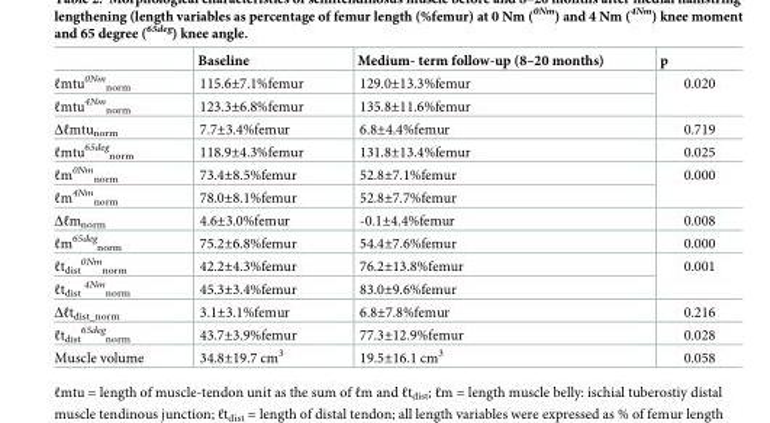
<table><thead><tr><td></td><td>Baseline</td><td>Medium- term follow-up (8–20 months)</td><td>p</td></tr></thead><tbody><tr><td>ℓmtu<sup>0Nm</sup> <sub>norm</sub></td><td>115.6±7.1%femur</td><td>129.0±13.3%femur</td><td rowspan="2">0.020</td></tr><tr><td>ℓmtu<sup>4Nm</sup> <sub>norm</sub></td><td>123.3±6.8%femur</td><td>135.8±11.6%femur</td></tr><tr><td>Δℓmtu<sub>norm</sub></td><td>7.7±3.4%femur</td><td>6.8±4.4%femur</td><td>0.719</td></tr><tr><td>ℓmtu<sup>65deg</sup> <sub>norm</sub></td><td>118.9±4.3%femur</td><td>131.8±13.4%femur</td><td>0.025</td></tr><tr><td>ℓm<sup>0Nm</sup> <sub>norm</sub></td><td>73.4±8.5%femur</td><td>52.8±7.1%femur</td><td rowspan="2">0.000</td></tr><tr><td>ℓm<sup>4Nm</sup> <sub>norm</sub></td><td>78.0±8.1%femur</td><td>52.8±7.7%femur</td></tr><tr><td>Δℓm<sub>norm</sub></td><td>4.6±3.0%femur</td><td>-0.1±4.4%femur</td><td>0.008</td></tr><tr><td>ℓm<sup>65deg</sup> <sub>norm</sub></td><td>75.2±6.8%femur</td><td>54.4±7.6%femur</td><td>0.000</td></tr><tr><td>ℓt<sub>dist</sub> <sup>0Nm</sup> <sub>norm</sub></td><td>42.2±4.3%femur</td><td>76.2±13.8%femur</td><td rowspan="2">0.001</td></tr><tr><td>ℓt<sub>dist</sub> <sup>4Nm</sup> <sub>norm</sub></td><td>45.3±3.4%femur</td><td>83.0±9.6%femur</td></tr><tr><td>Δℓt<sub>dist_norm</sub></td><td>3.1±3.1%femur</td><td>6.8±7.8%femur</td><td>0.216</td></tr><tr><td>ℓt<sub>dist</sub> <sup>65deg</sup> <sub>norm</sub></td><td>43.7±3.9%femur</td><td>77.3±12.9%femur</td><td>0.028</td></tr><tr><td>Muscle volume</td><td>34.8±19.7 cm<sup>3</sup></td><td>19.5±16.1 cm<sup>3</sup></td><td>0.058</td></tr></tbody></table>